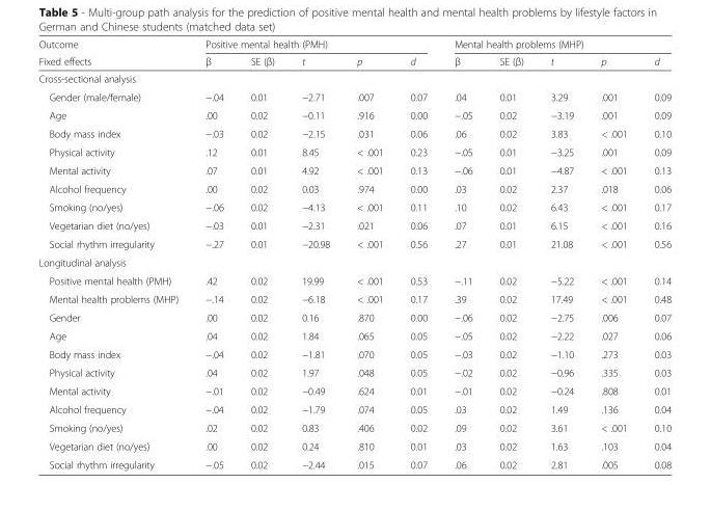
<table><thead><tr><td rowspan="2">Outcome Fixed effects</td><td colspan="5">Positive mental health (PMH)</td><td colspan="5">Mental health problems (MHP)</td></tr><tr><td>β</td><td>SE (β)</td><td>t</td><td>p</td><td>d</td><td>β</td><td>SE (β)</td><td>t</td><td>p</td><td>d</td></tr></thead><tbody><tr><td colspan="11">Cross-sectional analysis</td></tr><tr><td>Gender (male/female)</td><td>−.04</td><td>0.01</td><td>−2.71</td><td>.007</td><td>0.07</td><td>.04</td><td>0.01</td><td>3.29</td><td>.001</td><td>0.09</td></tr><tr><td>Age</td><td>.00</td><td>0.02</td><td>−0.11</td><td>.916</td><td>0.00</td><td>−.05</td><td>0.02</td><td>−3.19</td><td>.001</td><td>0.09</td></tr><tr><td>Body mass index</td><td>−.03</td><td>0.02</td><td>−2.15</td><td>.031</td><td>0.06</td><td>.06</td><td>0.02</td><td>3.83</td><td>&lt; .001</td><td>0.10</td></tr><tr><td>Physical activity</td><td>.12</td><td>0.01</td><td>8.45</td><td>&lt; .001</td><td>0.23</td><td>−.05</td><td>0.01</td><td>−3.25</td><td>.001</td><td>0.09</td></tr><tr><td>Mental activity</td><td>.07</td><td>0.01</td><td>4.92</td><td>&lt; .001</td><td>0.13</td><td>−.06</td><td>0.01</td><td>−4.87</td><td>&lt; .001</td><td>0.13</td></tr><tr><td>Alcohol frequency</td><td>.00</td><td>0.02</td><td>0.03</td><td>.974</td><td>0.00</td><td>.03</td><td>0.02</td><td>2.37</td><td>.018</td><td>0.06</td></tr><tr><td>Smoking (no/yes)</td><td>−.06</td><td>0.02</td><td>−4.13</td><td>&lt; .001</td><td>0.11</td><td>.10</td><td>0.02</td><td>6.43</td><td>&lt; .001</td><td>0.17</td></tr><tr><td>Vegetarian diet (no/yes)</td><td>−.03</td><td>0.01</td><td>−2.31</td><td>.021</td><td>0.06</td><td>.07</td><td>0.01</td><td>6.15</td><td>&lt; .001</td><td>0.16</td></tr><tr><td>Social rhythm irregularity</td><td>−.27</td><td>0.01</td><td>−20.98</td><td>&lt; .001</td><td>0.56</td><td>.27</td><td>0.01</td><td>21.08</td><td>&lt; .001</td><td>0.56</td></tr><tr><td colspan="11">Longitudinal analysis</td></tr><tr><td>Positive mental health (PMH)</td><td>.42</td><td>0.02</td><td>19.99</td><td>&lt; .001</td><td>0.53</td><td>−.11</td><td>0.02</td><td>−5.22</td><td>&lt; .001</td><td>0.14</td></tr><tr><td>Mental health problems (MHP)</td><td>−.14</td><td>0.02</td><td>−6.18</td><td>&lt; .001</td><td>0.17</td><td>.39</td><td>0.02</td><td>17.49</td><td>&lt; .001</td><td>0.48</td></tr><tr><td>Gender</td><td>.00</td><td>0.02</td><td>0.16</td><td>.870</td><td>0.00</td><td>−.06</td><td>0.02</td><td>−2.75</td><td>.006</td><td>0.07</td></tr><tr><td>Age</td><td>.04</td><td>0.02</td><td>1.84</td><td>.065</td><td>0.05</td><td>−.05</td><td>0.02</td><td>−2.22</td><td>.027</td><td>0.06</td></tr><tr><td>Body mass index</td><td>−.04</td><td>0.02</td><td>−1.81</td><td>.070</td><td>0.05</td><td>−.03</td><td>0.02</td><td>−1.10</td><td>.273</td><td>0.03</td></tr><tr><td>Physical activity</td><td>.04</td><td>0.02</td><td>1.97</td><td>.048</td><td>0.05</td><td>−.02</td><td>0.02</td><td>−0.96</td><td>.335</td><td>0.03</td></tr><tr><td>Mental activity</td><td>−.01</td><td>0.02</td><td>−0.49</td><td>.624</td><td>0.01</td><td>−.01</td><td>0.02</td><td>−0.24</td><td>.808</td><td>0.01</td></tr><tr><td>Alcohol frequency</td><td>−.04</td><td>0.02</td><td>−1.79</td><td>.074</td><td>0.05</td><td>.03</td><td>0.02</td><td>1.49</td><td>.136</td><td>0.04</td></tr><tr><td>Smoking (no/yes)</td><td>.02</td><td>0.02</td><td>0.83</td><td>.406</td><td>0.02</td><td>.09</td><td>0.02</td><td>3.61</td><td>&lt; .001</td><td>0.10</td></tr><tr><td>Vegetarian diet (no/yes)</td><td>.00</td><td>0.02</td><td>0.24</td><td>.810</td><td>0.01</td><td>.03</td><td>0.02</td><td>1.63</td><td>.103</td><td>0.04</td></tr><tr><td>Social rhythm irregularity</td><td>−.05</td><td>0.02</td><td>−2.44</td><td>.015</td><td>0.07</td><td>.06</td><td>0.02</td><td>2.81</td><td>.005</td><td>0.08</td></tr></tbody></table>